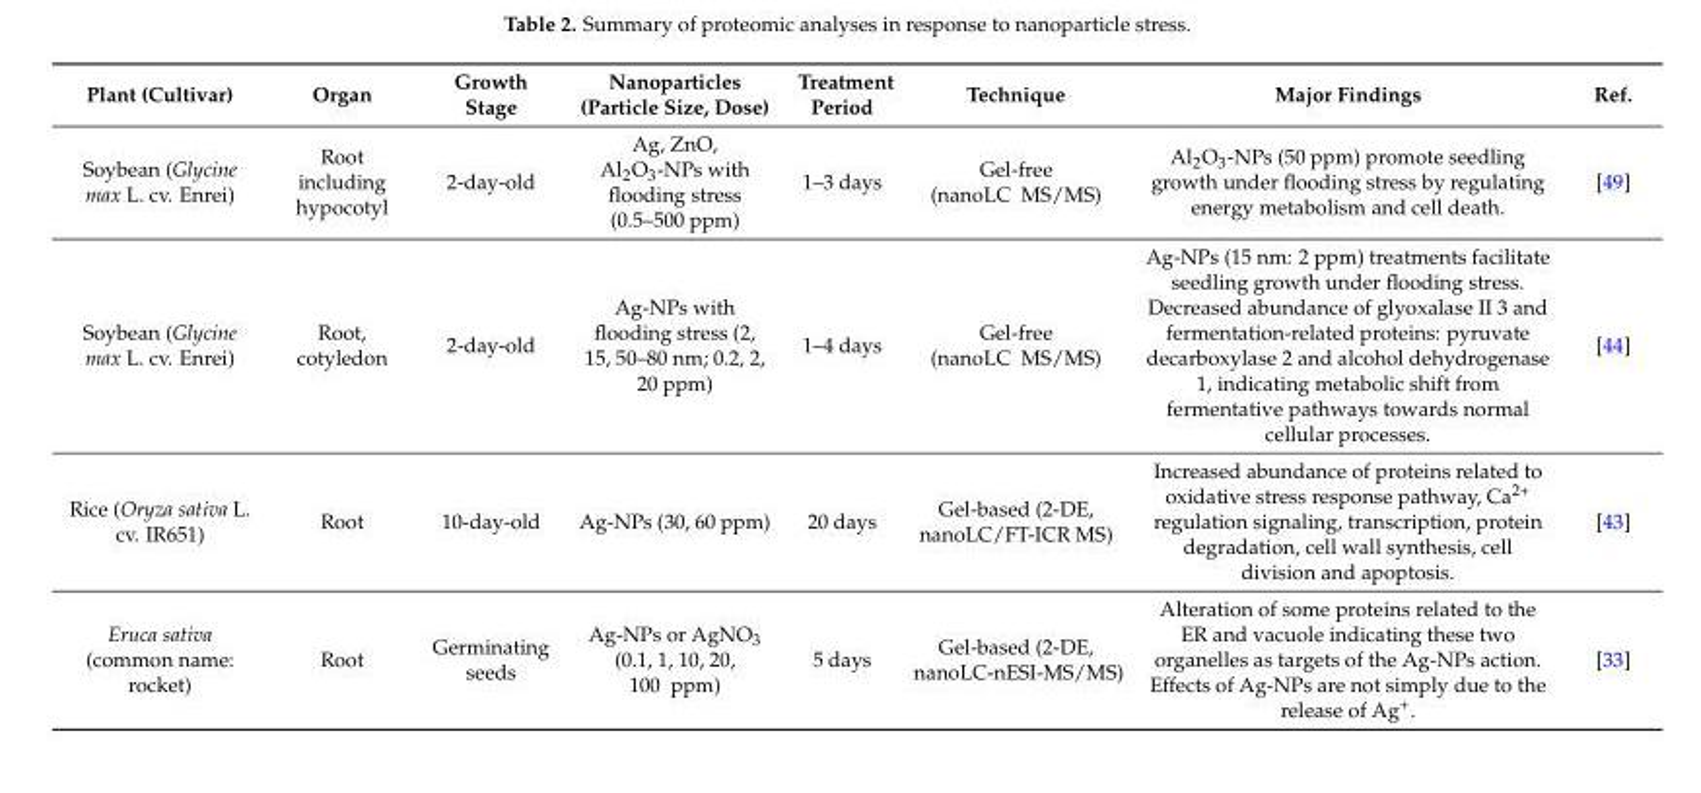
<table><thead><tr><td>Plant (Cultivar)</td><td>Organ</td><td>Growth Stage</td><td>Nanoparticles (Particle Size, Dose)</td><td>Treatment Period</td><td>Technique</td><td>Major Findings</td><td>Ref.</td></tr></thead><tbody><tr><td>Soybean (Glycine max L. cv. Enrei)</td><td>Root including hypocotyl</td><td>2-day-old</td><td>Ag, ZnO, Al<sub>2</sub>O<sub>3</sub>-NPs with flooding stress (0.5–500 ppm)</td><td>1–3 days</td><td>Gel-free (nanoLC MS/MS)</td><td>Al<sub>2</sub>O<sub>3</sub>-NPs (50 ppm) promote seedling growth under flooding stress by regulating energy metabolism and cell death.</td><td>[49]</td></tr><tr><td>Soybean (Glycine max L. cv. Enrei)</td><td>Root, cotyledon</td><td>2-day-old</td><td>Ag-NPs with flooding stress (2, 15, 50–80 nm; 0.2, 2, 20 ppm)</td><td>1–4 days</td><td>Gel-free (nanoLC MS/MS)</td><td>Ag-NPs (15 nm: 2 ppm) treatments facilitate seedling growth under flooding stress. Decreased abundance of glyoxalase II 3 and fermentation-related proteins: pyruvate decarboxylase 2 and alcohol dehydrogenase 1, indicating metabolic shift from fermentative pathways towards normal cellular processes.</td><td>[44]</td></tr><tr><td>Rice (Oryza sativa L. cv. IR651)</td><td>Root</td><td>10-day-old</td><td>Ag-NPs (30, 60 ppm)</td><td>20 days</td><td>Gel-based (2-DE, nanoLC/FT-ICR MS)</td><td>Increased abundance of proteins related to oxidative stress response pathway, Ca<sup>2+</sup> regulation signaling, transcription, protein degradation, cell wall synthesis, cell division and apoptosis.</td><td>[43]</td></tr><tr><td>Eruca sativa (common name: rocket)</td><td>Root</td><td>Germinating seeds</td><td>Ag-NPs or AgNO<sub>3</sub> (0.1, 1, 10, 20, 100 ppm)</td><td>5 days</td><td>Gel-based (2-DE, nanoLC-nESI-MS/MS)</td><td>Alteration of some proteins related to the ER and vacuole indicating these two organelles as targets of the Ag-NPs action. Effects of Ag-NPs are not simply due to the release of Ag<sup>+</sup>.</td><td>[33]</td></tr></tbody></table>